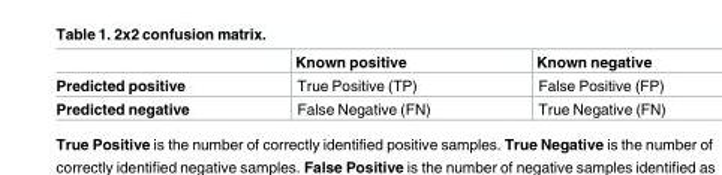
<table><thead><tr><td></td><td>Known positive</td><td>Known negative</td></tr></thead><tbody><tr><td>Predicted positive</td><td>True Positive (TP)</td><td>False Positive (FP)</td></tr><tr><td>Predicted negative</td><td>False Negative (FN)</td><td>True Negative (FN)</td></tr></tbody></table>